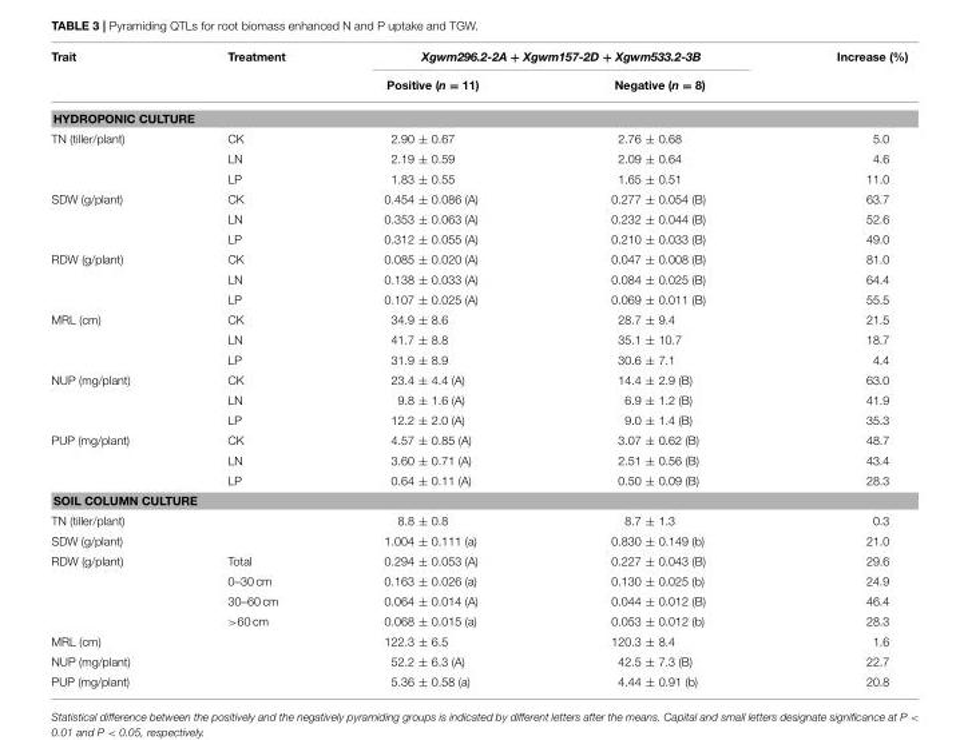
<table><thead><tr><td rowspan="2">Trait</td><td rowspan="2">Treatment</td><td colspan="2">Xgwm296.2-2A + Xgwm157-2D + Xgwm533.2-3B</td><td rowspan="2">Increase (%)</td></tr><tr><td>Positive (n = 11)</td><td>Negative (n = 8)</td></tr></thead><tbody><tr><td colspan="5">HYDROPONIC CULTURE</td></tr><tr><td rowspan="3">TN (tiller/plant)</td><td>CK</td><td>2.90 ± 0.67</td><td>2.76 ± 0.68</td><td>5.0</td></tr><tr><td>LN</td><td>2.19 ± 0.59</td><td>2.09 ± 0.64</td><td>4.6</td></tr><tr><td>LP</td><td>1.83 ± 0.55</td><td>1.65 ± 0.51</td><td>11.0</td></tr><tr><td rowspan="3">SDW (g/plant)</td><td>CK</td><td>0.454 ± 0.086 (A)</td><td>0.277 ± 0.054 (B)</td><td>63.7</td></tr><tr><td>LN</td><td>0.353 ± 0.063 (A)</td><td>0.232 ± 0.044 (B)</td><td>52.6</td></tr><tr><td>LP</td><td>0.312 ± 0.055 (A)</td><td>0.210 ± 0.033 (B)</td><td>49.0</td></tr><tr><td rowspan="3">RDW (g/plant)</td><td>CK</td><td>0.085 ± 0.020 (A)</td><td>0.047 ± 0.008 (B)</td><td>81.0</td></tr><tr><td>LN</td><td>0.138 ± 0.033 (A)</td><td>0.084 ± 0.025 (B)</td><td>64.4</td></tr><tr><td>LP</td><td>0.107 ± 0.025 (A)</td><td>0.069 ± 0.011 (B)</td><td>55.5</td></tr><tr><td rowspan="3">MRL (cm)</td><td>CK</td><td>34.9 ± 8.6</td><td>28.7 ± 9.4</td><td>21.5</td></tr><tr><td>LN</td><td>41.7 ± 8.8</td><td>35.1 ± 10.7</td><td>18.7</td></tr><tr><td>LP</td><td>31.9 ± 8.9</td><td>30.6 ± 7.1</td><td>4.4</td></tr><tr><td rowspan="3">NUP (mg/plant)</td><td>CK</td><td>23.4 ± 4.4 (A)</td><td>14.4 ± 2.9 (B)</td><td>63.0</td></tr><tr><td>LN</td><td>9.8 ± 1.6 (A)</td><td>6.9 ± 1.2 (B)</td><td>41.9</td></tr><tr><td>LP</td><td>12.2 ± 2.0 (A)</td><td>9.0 ± 1.4 (B)</td><td>35.3</td></tr><tr><td rowspan="3">PUP (mg/plant)</td><td>CK</td><td>4.57 ± 0.85 (A)</td><td>3.07 ± 0.62 (B)</td><td>48.7</td></tr><tr><td>LN</td><td>3.60 ± 0.71 (A)</td><td>2.51 ± 0.56 (B)</td><td>43.4</td></tr><tr><td>LP</td><td>0.64 ± 0.11 (A)</td><td>0.50 ± 0.09 (B)</td><td>28.3</td></tr><tr><td colspan="5">SOIL COLUMN CULTURE</td></tr><tr><td>TN (tiller/plant)</td><td></td><td>8.8 ± 0.8</td><td>8.7 ± 1.3</td><td>0.3</td></tr><tr><td>SDW (g/plant)</td><td></td><td>1.004 ± 0.111 (a)</td><td>0.830 ± 0.149 (b)</td><td>21.0</td></tr><tr><td rowspan="4">RDW (g/plant)</td><td>Total</td><td>0.294 ± 0.053 (A)</td><td>0.227 ± 0.043 (B)</td><td>29.6</td></tr><tr><td>0–30 cm</td><td>0.163 ± 0.026 (a)</td><td>0.130 ± 0.025 (b)</td><td>24.9</td></tr><tr><td>30–60 cm</td><td>0.064 ± 0.014 (A)</td><td>0.044 ± 0.012 (B)</td><td>46.4</td></tr><tr><td>&gt;60 cm</td><td>0.068 ± 0.015 (a)</td><td>0.053 ± 0.012 (b)</td><td>28.3</td></tr><tr><td>MRL (cm)</td><td></td><td>122.3 ± 6.5</td><td>120.3 ± 8.4</td><td>1.6</td></tr><tr><td>NUP (mg/plant)</td><td></td><td>52.2 ± 6.3 (A)</td><td>42.5 ± 7.3 (B)</td><td>22.7</td></tr><tr><td>PUP (mg/plant)</td><td></td><td>5.36 ± 0.58 (a)</td><td>4.44 ± 0.91 (b)</td><td>20.8</td></tr></tbody></table>